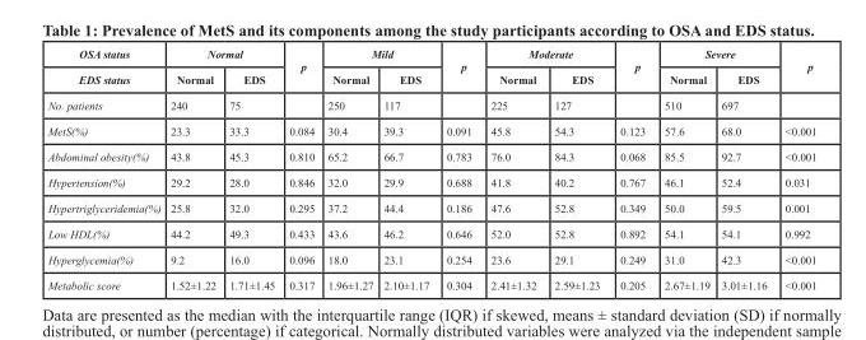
<table><thead><tr><td rowspan="2">OSA status EDS status</td><td colspan="2">Normal</td><td rowspan="2">p</td><td colspan="2">Mild</td><td rowspan="2">p</td><td colspan="2">Moderate</td><td rowspan="2">p</td><td colspan="2">Severe</td><td rowspan="2">p</td></tr><tr><td>Normal</td><td>EDS</td><td>Normal</td><td>EDS</td><td>Normal</td><td>EDS</td><td>Normal</td><td>EDS</td></tr></thead><tbody><tr><td>No. patients</td><td>240</td><td>75</td><td></td><td>250</td><td>117</td><td></td><td>225</td><td>127</td><td></td><td>510</td><td>697</td><td></td></tr><tr><td>MetS(%)</td><td>23.3</td><td>33.3</td><td>0.084</td><td>30.4</td><td>39.3</td><td>0.091</td><td>45.8</td><td>54.3</td><td>0.123</td><td>57.6</td><td>68.0</td><td>&lt;0.001</td></tr><tr><td>Abdominal obesity(%)</td><td>43.8</td><td>45.3</td><td>0.810</td><td>65.2</td><td>66.7</td><td>0.783</td><td>76.0</td><td>84.3</td><td>0.068</td><td>85.5</td><td>92.7</td><td>&lt;0.001</td></tr><tr><td>Hypertension(%)</td><td>29.2</td><td>28.0</td><td>0.846</td><td>32.0</td><td>29.9</td><td>0.688</td><td>41.8</td><td>40.2</td><td>0.767</td><td>46.1</td><td>52.4</td><td>0.031</td></tr><tr><td>Hypertriglyceridemia(%)</td><td>25.8</td><td>32.0</td><td>0.295</td><td>37.2</td><td>44.4</td><td>0.186</td><td>47.6</td><td>52.8</td><td>0.349</td><td>50.0</td><td>59.5</td><td>0.001</td></tr><tr><td>Low HDL(%)</td><td>44.2</td><td>49.3</td><td>0.433</td><td>43.6</td><td>46.2</td><td>0.646</td><td>52.0</td><td>52.8</td><td>0.892</td><td>54.1</td><td>54.1</td><td>0.992</td></tr><tr><td>Hyperglycemia(%)</td><td>9.2</td><td>16.0</td><td>0.096</td><td>18.0</td><td>23.1</td><td>0.254</td><td>23.6</td><td>29.1</td><td>0.249</td><td>31.0</td><td>42.3</td><td>&lt;0.001</td></tr><tr><td>Metabolic score</td><td>1.52±1.22</td><td>1.71±1.45</td><td>0.317</td><td>1.96±1.27</td><td>2.10±1.17</td><td>0.304</td><td>2.41±1.32</td><td>2.59±1.23</td><td>0.205</td><td>2.67±1.19</td><td>3.01±1.16</td><td>&lt;0.001</td></tr></tbody></table>